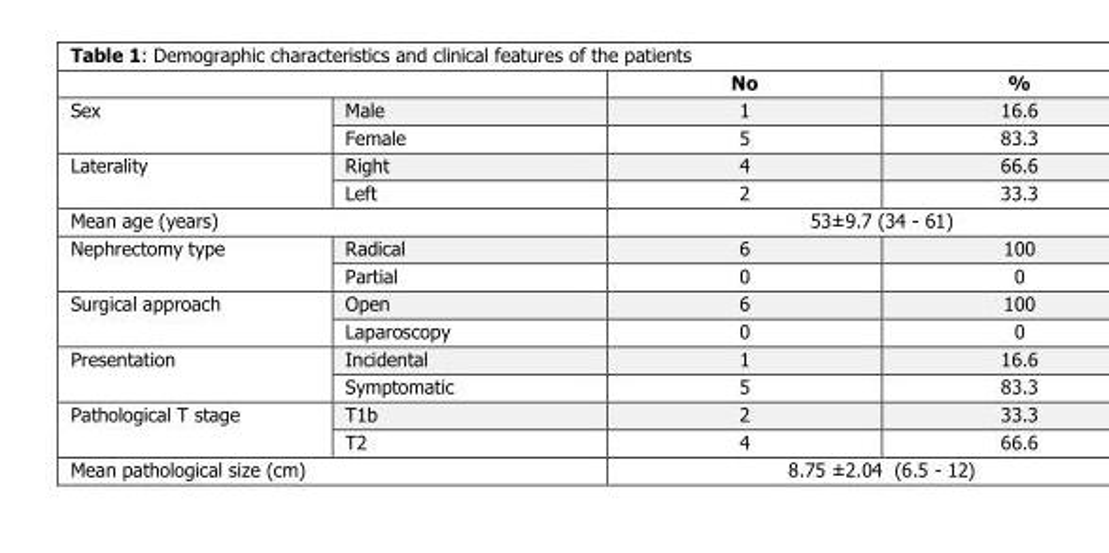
<table><thead><tr><td></td><td></td><td>No</td><td>%</td></tr></thead><tbody><tr><td rowspan="2">Sex</td><td>Male</td><td>1</td><td>16.6</td></tr><tr><td>Female</td><td>5</td><td>83.3</td></tr><tr><td rowspan="2">Laterality</td><td>Right</td><td>4</td><td>66.6</td></tr><tr><td>Left</td><td>2</td><td>33.3</td></tr><tr><td colspan="2">Mean age (years)</td><td colspan="2">53±9.7 (34 - 61)</td></tr><tr><td rowspan="2">Nephrectomy type</td><td>Radical</td><td>6</td><td>100</td></tr><tr><td>Partial</td><td>0</td><td>0</td></tr><tr><td rowspan="2">Surgical approach</td><td>Open</td><td>6</td><td>100</td></tr><tr><td>Laparoscopy</td><td>0</td><td>0</td></tr><tr><td rowspan="2">Presentation</td><td>Incidental</td><td>1</td><td>16.6</td></tr><tr><td>Symptomatic</td><td>5</td><td>83.3</td></tr><tr><td rowspan="2">Pathological T stage</td><td>T1b</td><td>2</td><td>33.3</td></tr><tr><td>T2</td><td>4</td><td>66.6</td></tr><tr><td colspan="2">Mean pathological size (cm)</td><td colspan="2">8.75 ±2.04 (6.5 - 12)</td></tr></tbody></table>